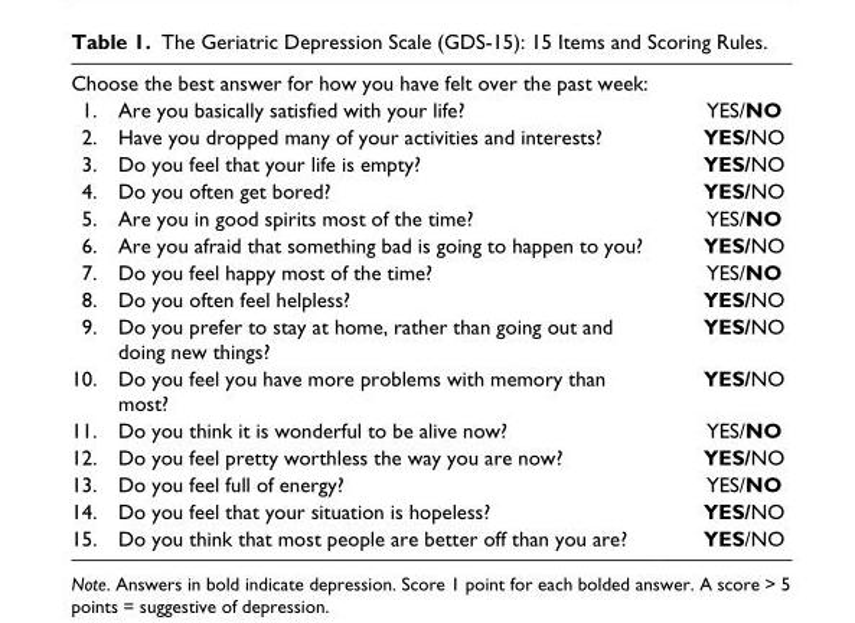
<table><tbody><tr><td colspan="2">Choose the best answer for how you have felt over the past week:</td></tr><tr><td>1. Are you basically satisfied with your life?</td><td>YES/NO</td></tr><tr><td>2. Have you dropped many of your activities and interests?</td><td>YES/NO</td></tr><tr><td>3. Do you feel that your life is empty?</td><td>YES/NO</td></tr><tr><td>4. Do you often get bored?</td><td>YES/NO</td></tr><tr><td>5. Are you in good spirits most of the time?</td><td>YES/NO</td></tr><tr><td>6. Are you afraid that something bad is going to happen to you?</td><td>YES/NO</td></tr><tr><td>7. Do you feel happy most of the time?</td><td>YES/NO</td></tr><tr><td>8. Do you often feel helpless?</td><td>YES/NO</td></tr><tr><td>9. Do you prefer to stay at home, rather than going out and doing new things?</td><td>YES/NO</td></tr><tr><td>10. Do you feel you have more problems with memory than most?</td><td>YES/NO</td></tr><tr><td>11. Do you think it is wonderful to be alive now?</td><td>YES/NO</td></tr><tr><td>12. Do you feel pretty worthless the way you are now?</td><td>YES/NO</td></tr><tr><td>13. Do you feel full of energy?</td><td>YES/NO</td></tr><tr><td>14. Do you feel that your situation is hopeless?</td><td>YES/NO</td></tr><tr><td>15. Do you think that most people are better off than you are?</td><td>YES/NO</td></tr></tbody></table>